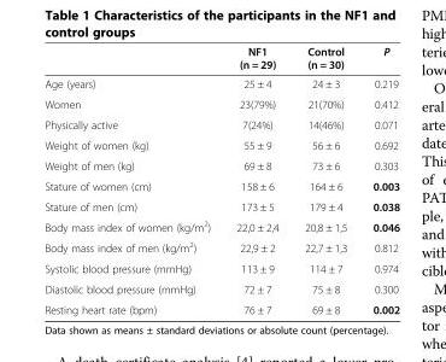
<table><thead><tr><td></td><td>NF1 (n = 29)</td><td>Control (n = 30)</td><td>P</td></tr></thead><tbody><tr><td>Age (years)</td><td>25 ± 4</td><td>24 ± 3</td><td>0.219</td></tr><tr><td>Women</td><td>23(79%)</td><td>21(70%)</td><td>0.412</td></tr><tr><td>Physically active</td><td>7(24%)</td><td>14(46%)</td><td>0.071</td></tr><tr><td>Weight of women (kg)</td><td>55 ± 9</td><td>56 ± 6</td><td>0.692</td></tr><tr><td>Weight of men (kg)</td><td>69 ± 8</td><td>73 ± 6</td><td>0.303</td></tr><tr><td>Stature of women (cm)</td><td>158 ± 6</td><td>164 ± 6</td><td>0.003</td></tr><tr><td>Stature of men (cm)</td><td>173 ± 5</td><td>179 ± 4</td><td>0.038</td></tr><tr><td>Body mass index of women (kg/m<sup>2</sup>)</td><td>22,0 ± 2,4</td><td>20,8 ± 1,5</td><td>0.046</td></tr><tr><td>Body mass index of men (kg/m<sup>2</sup>)</td><td>22,9 ± 2</td><td>22,7 ± 1,3</td><td>0.812</td></tr><tr><td>Systolic blood pressure (mmHg)</td><td>113 ± 9</td><td>114 ± 7</td><td>0.974</td></tr><tr><td>Diastolic blood pressure (mmHg)</td><td>72 ± 7</td><td>75 ± 8</td><td>0.300</td></tr><tr><td>Resting heart rate (bpm)</td><td>76 ± 7</td><td>69 ± 8</td><td>0.002</td></tr></tbody></table>